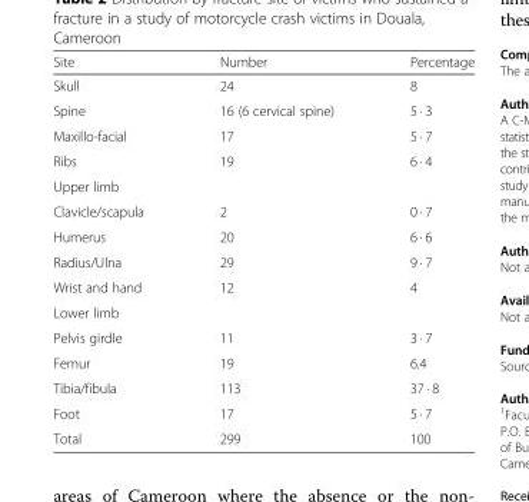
<table><thead><tr><td>Site</td><td>Number</td><td>Percentage</td></tr></thead><tbody><tr><td>Skull</td><td>24</td><td>8</td></tr><tr><td>Spine</td><td>16 (6 cervical spine)</td><td>5 · 3</td></tr><tr><td>Maxillo-facial</td><td>17</td><td>5 · 7</td></tr><tr><td>Ribs</td><td>19</td><td>6 · 4</td></tr><tr><td colspan="3">Upper limb</td></tr><tr><td>Clavicle/scapula</td><td>2</td><td>0 · 7</td></tr><tr><td>Humerus</td><td>20</td><td>6 · 6</td></tr><tr><td>Radius/Ulna</td><td>29</td><td>9 · 7</td></tr><tr><td>Wrist and hand</td><td>12</td><td>4</td></tr><tr><td colspan="3">Lower limb</td></tr><tr><td>Pelvis girdle</td><td>11</td><td>3 · 7</td></tr><tr><td>Femur</td><td>19</td><td>6.4</td></tr><tr><td>Tibia/fibula</td><td>113</td><td>37 · 8</td></tr><tr><td>Foot</td><td>17</td><td>5 · 7</td></tr><tr><td>Total</td><td>299</td><td>100</td></tr></tbody></table>